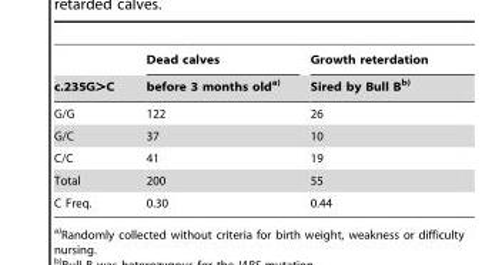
<table><thead><tr><td rowspan="2">c.235G&gt;C</td><td rowspan="2">Dead calves before 3 months olda)</td><td rowspan="2">Growth reterdation Sired by Bull Bb)</td></tr><tr></tr></thead><tbody><tr><td>G/G</td><td>122</td><td>26</td></tr><tr><td>G/C</td><td>37</td><td>10</td></tr><tr><td>C/C</td><td>41</td><td>19</td></tr><tr><td>Total</td><td>200</td><td>55</td></tr><tr><td>C Freq.</td><td>0.30</td><td>0.44</td></tr></tbody></table>